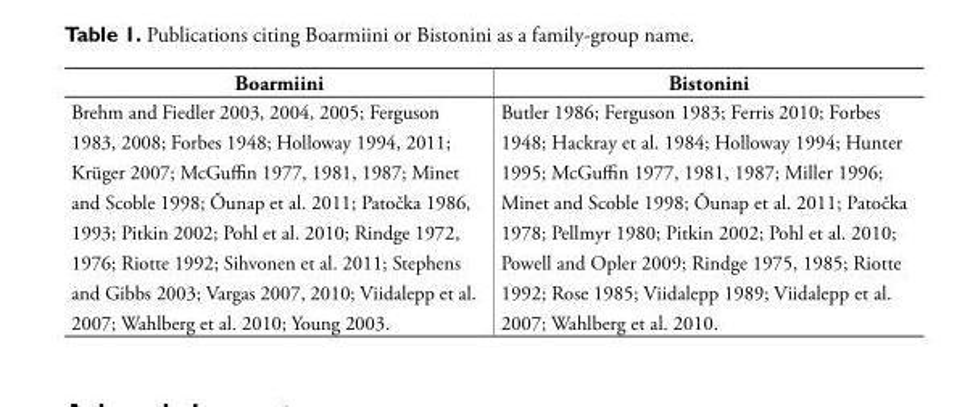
<table><thead><tr><td>Boarmiini</td><td>Bistonini</td></tr></thead><tbody><tr><td>Brehm and Fiedler 2003, 2004, 2005; Ferguson 1983, 2008; Forbes 1948; Holloway 1994, 2011; Krüger 2007; McGuffin 1977, 1981, 1987; Minet and Scoble 1998; Õunap et al. 2011; Patočka 1986, 1993; Pitkin 2002; Pohl et al. 2010; Rindge 1972, 1976; Riotte 1992; Sihvonen et al. 2011; Stephens and Gibbs 2003; Vargas 2007, 2010; Viidalepp et al. 2007; Wahlberg et al. 2010; Young 2003.</td><td>Butler 1986; Ferguson 1983; Ferris 2010; Forbes 1948; Hackray et al. 1984; Holloway 1994; Hunter 1995; McGuffin 1977, 1981, 1987; Miller 1996; Minet and Scoble 1998; Õunap et al. 2011; Patočka 1978; Pellmyr 1980; Pitkin 2002; Pohl et al. 2010; Powell and Opler 2009; Rindge 1975, 1985; Riotte 1992; Rose 1985; Viidalepp 1989; Viidalepp et al. 2007; Wahlberg et al. 2010.</td></tr></tbody></table>